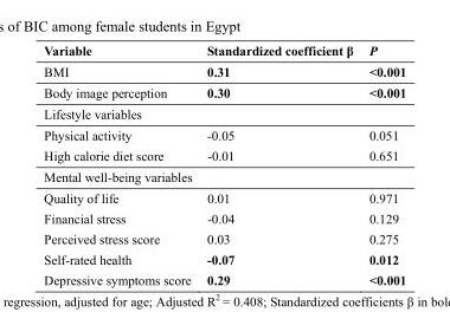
<table><thead><tr><td>Variable</td><td>Standardized coefficient β</td><td>P</td></tr></thead><tbody><tr><td>BMI</td><td>0.31</td><td>&lt;0.001</td></tr><tr><td>Body image perception</td><td>0.30</td><td>&lt;0.001</td></tr><tr><td colspan="3">Lifestyle variables</td></tr><tr><td>Physical activity</td><td>-0.05</td><td>0.051</td></tr><tr><td>High calorie diet score</td><td>-0.01</td><td>0.651</td></tr><tr><td colspan="3">Mental well-being variables</td></tr><tr><td>Quality of life</td><td>0.01</td><td>0.971</td></tr><tr><td>Financial stress</td><td>-0.04</td><td>0.129</td></tr><tr><td>Perceived stress score</td><td>0.03</td><td>0.275</td></tr><tr><td>Self-rated health</td><td>-0.07</td><td>0.012</td></tr><tr><td>Depressive symptoms score</td><td>0.29</td><td>&lt;0.001</td></tr></tbody></table>